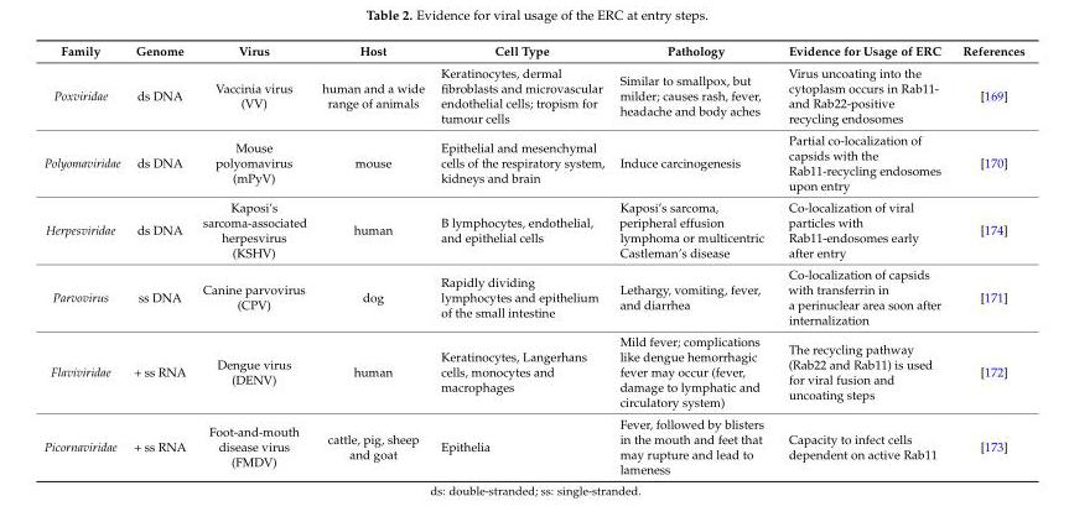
<table><thead><tr><td>Family</td><td>Genome</td><td>Virus</td><td>Host</td><td>Cell Type</td><td>Pathology</td><td>Evidence for Usage of ERC</td><td>References</td></tr></thead><tbody><tr><td>Poxviridae</td><td>ds DNA</td><td>Vaccinia virus (VV)</td><td>human and a wide range of animals</td><td>Keratinocytes, dermal fibroblasts and microvascular endothelial cells; tropism for tumour cells</td><td>Similar to smallpox, but milder; causes rash, fever, headache and body aches</td><td>Virus uncoating into the cytoplasm occurs in Rab11- and Rab22-positive recycling endosomes</td><td>[169]</td></tr><tr><td>Polyomaviridae</td><td>ds DNA</td><td>Mouse polyomavirus (mPyV)</td><td>mouse</td><td>Epithelial and mesenchymal cells of the respiratory system, kidneys and brain</td><td>Induce carcinogenesis</td><td>Partial co-localization of capsids with the Rab11-recycling endosomes upon entry</td><td>[170]</td></tr><tr><td>Herpesviridae</td><td>ds DNA</td><td>Kaposi’s sarcoma-associated herpesvirus (KSHV)</td><td>human</td><td>B lymphocytes, endothelial, and epithelial cells</td><td>Kaposi’s sarcoma, peripheral effusion lymphoma or multicentric Castleman’s disease</td><td>Co-localization of viral particles with Rab11-endosomes early after entry</td><td>[174]</td></tr><tr><td>Parvovirus</td><td>ss DNA</td><td>Canine parvovirus (CPV)</td><td>dog</td><td>Rapidly dividing lymphocytes and epithelium of the small intestine</td><td>Lethargy, vomiting, fever, and diarrhea</td><td>Co-localization of capsids with transferrin in a perinuclear area soon after internalization</td><td>[171]</td></tr><tr><td>Flaviviridae</td><td>+ ss RNA</td><td>Dengue virus (DENV)</td><td>human</td><td>Keratinocytes, Langerhans cells, monocytes and macrophages</td><td>Mild fever; complications like dengue hemorrhagic fever may occur (fever, damage to lymphatic and circulatory system)</td><td>The recycling pathway (Rab22 and Rab11) is used for viral fusion and uncoating steps</td><td>[172]</td></tr><tr><td>Picornaviridae</td><td>+ ss RNA</td><td>Foot-and-mouth disease virus (FMDV)</td><td>cattle, pig, sheep and goat</td><td>Epithelia</td><td>Fever, followed by blisters in the mouth and feet that may rupture and lead to lameness</td><td>Capacity to infect cells dependent on active Rab11</td><td>[173]</td></tr></tbody></table>